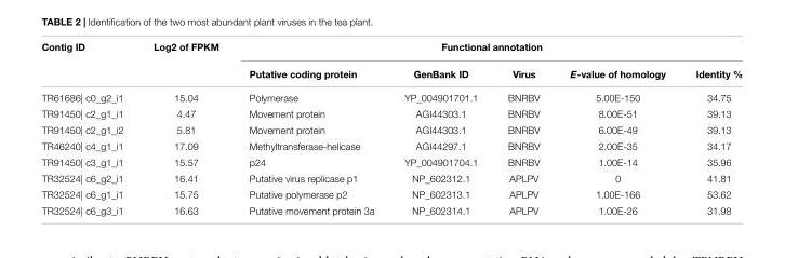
<table><thead><tr><td rowspan="2">Contig ID</td><td rowspan="2">Log2 of FPKM</td><td colspan="5">Functional annotation</td></tr><tr><td>Putative coding protein</td><td>GenBank ID</td><td>Virus</td><td>E-value of homology</td><td>Identity %</td></tr></thead><tbody><tr><td>TR61686| c0_g2_i1</td><td>15.04</td><td>Polymerase</td><td>YP_004901701.1</td><td>BNRBV</td><td>5.00E-150</td><td>34.75</td></tr><tr><td>TR91450| c2_g1_i1</td><td>4.47</td><td>Movement protein</td><td>AGI44303.1</td><td>BNRBV</td><td>8.00E-51</td><td>39.13</td></tr><tr><td>TR91450| c2_g1_i2</td><td>5.81</td><td>Movement protein</td><td>AGI44303.1</td><td>BNRBV</td><td>6.00E-49</td><td>39.13</td></tr><tr><td>TR46240| c4_g1_i1</td><td>17.09</td><td>Methyltransferase-helicase</td><td>AGI44297.1</td><td>BNRBV</td><td>2.00E-35</td><td>34.17</td></tr><tr><td>TR91450| c3_g1_i1</td><td>15.57</td><td>p24</td><td>YP_004901704.1</td><td>BNRBV</td><td>1.00E-14</td><td>35.96</td></tr><tr><td>TR32524| c6_g2_i1</td><td>16.41</td><td>Putative virus replicase p1</td><td>NP_602312.1</td><td>APLPV</td><td>0</td><td>41.81</td></tr><tr><td>TR32524| c6_g1_i1</td><td>15.75</td><td>Putative polymerase p2</td><td>NP_602313.1</td><td>APLPV</td><td>1.00E-166</td><td>53.62</td></tr><tr><td>TR32524| c6_g3_i1</td><td>16.63</td><td>Putative movement protein 3a</td><td>NP_602314.1</td><td>APLPV</td><td>1.00E-26</td><td>31.98</td></tr></tbody></table>